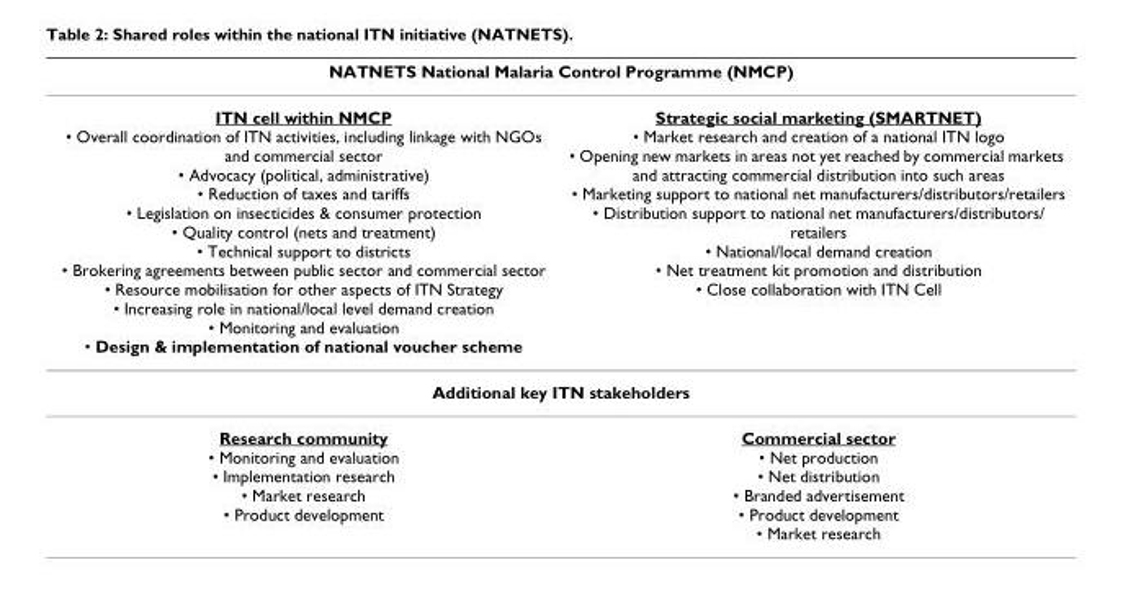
<table><thead><tr><td colspan="2">NATNETS National Malaria Control Programme (NMCP)</td></tr><tr><td>ITN cell within NMCP • Overall coordination of ITN activities, including linkage with NGOs and commercial sector • Advocacy (political, administrative) • Reduction of taxes and tariffs • Legislation on insecticides &amp; consumer protection • Quality control (nets and treatment) • Technical support to districts • Brokering agreements between public sector and commercial sector • Resource mobilisation for other aspects of ITN Strategy • Increasing role in national/local level demand creation • Monitoring and evaluation • Design &amp; implementation of national voucher scheme</td><td>Strategic social marketing (SMARTNET) • Market research and creation of a national ITN logo • Opening new markets in areas not yet reached by commercial markets and attracting commercial distribution into such areas • Marketing support to national net manufacturers/distributors/retailers • Distribution support to national net manufacturers/distributors/ retailers • National/local demand creation • Net treatment kit promotion and distribution • Close collaboration with ITN Cell</td></tr></thead><tbody><tr><td colspan="2">Additional key ITN stakeholders</td></tr><tr><td>Research community • Monitoring and evaluation • Implementation research • Market research • Product development</td><td>Commercial sector • Net production • Net distribution • Branded advertisement • Product development • Market research</td></tr></tbody></table>